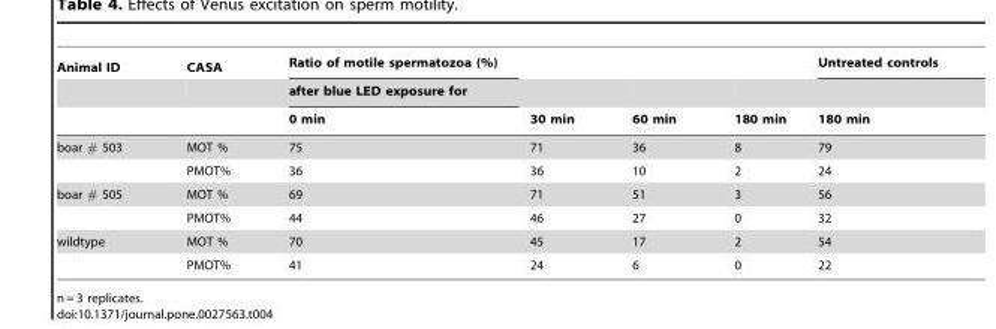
<table><thead><tr><td rowspan="3">Animal ID</td><td rowspan="3">CASA</td><td rowspan="3">Ratio of motile spermatozoa (%) after blue LED exposure for 0 min</td><td rowspan="3">30 min</td><td rowspan="3">60 min</td><td rowspan="3">180 min</td><td rowspan="3">Untreated controls 180 min</td></tr><tr></tr><tr></tr></thead><tbody><tr><td rowspan="2">boar # 503</td><td>MOT %</td><td>75</td><td>71</td><td>36</td><td>8</td><td>79</td></tr><tr><td>PMOT%</td><td>36</td><td>36</td><td>10</td><td>2</td><td>24</td></tr><tr><td rowspan="2">boar # 505</td><td>MOT %</td><td>69</td><td>71</td><td>51</td><td>3</td><td>56</td></tr><tr><td>PMOT%</td><td>44</td><td>46</td><td>27</td><td>0</td><td>32</td></tr><tr><td rowspan="2">wildtype</td><td>MOT %</td><td>70</td><td>45</td><td>17</td><td>2</td><td>54</td></tr><tr><td>PMOT%</td><td>41</td><td>24</td><td>6</td><td>0</td><td>22</td></tr></tbody></table>